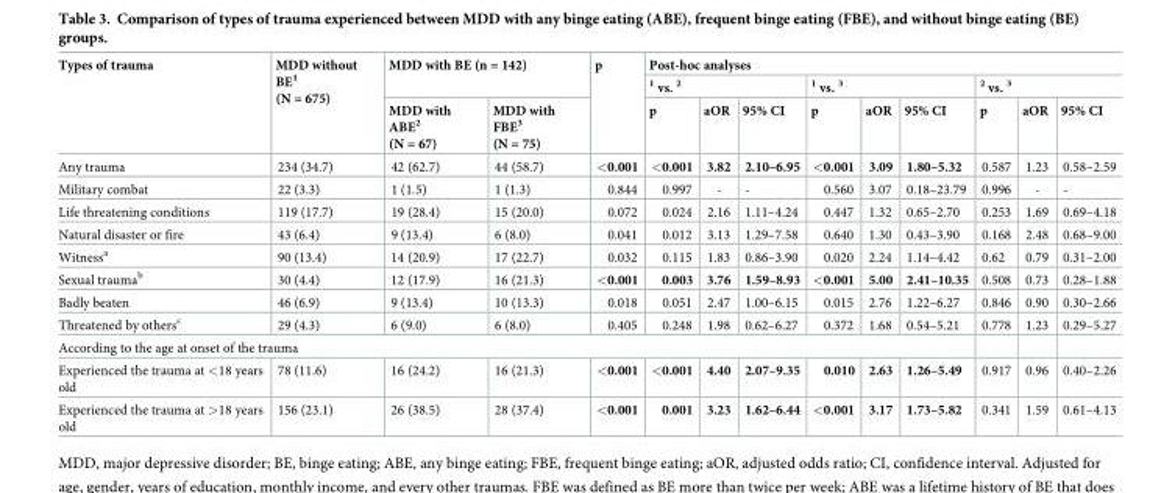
<table><thead><tr><td rowspan="3">Types of trauma</td><td rowspan="3">MDD without BE<sup>1</sup> (N = 675)</td><td rowspan="2" colspan="2">MDD with BE (n = 142)</td><td rowspan="3">p</td><td colspan="9">Post-hoc analyses</td></tr><tr><td colspan="3"><sup>1</sup> vs. <sup>2</sup></td><td colspan="3"><sup>1</sup> vs. <sup>3</sup></td><td colspan="3"><sup>2</sup> vs. <sup>3</sup></td></tr><tr><td>MDD with ABE<sup>2</sup> (N = 67)</td><td>MDD with FBE<sup>3</sup> (N = 75)</td><td>p</td><td>aOR</td><td>95% CI</td><td>p</td><td>aOR</td><td>95% CI</td><td>p</td><td>aOR</td><td>95% CI</td></tr></thead><tbody><tr><td>Any trauma</td><td>234 (34.7)</td><td>42 (62.7)</td><td>44 (58.7)</td><td>&lt;0.001</td><td>&lt;0.001</td><td>3.82</td><td>2.10–6.95</td><td>&lt;0.001</td><td>3.09</td><td>1.80–5.32</td><td>0.587</td><td>1.23</td><td>0.58–2.59</td></tr><tr><td>Military combat</td><td>22 (3.3)</td><td>1 (1.5)</td><td>1 (1.3)</td><td>0.844</td><td>0.997</td><td>-</td><td>-</td><td>0.560</td><td>3.07</td><td>0.18–23.79</td><td>0.996</td><td>-</td><td>-</td></tr><tr><td>Life threatening conditions</td><td>119 (17.7)</td><td>19 (28.4)</td><td>15 (20.0)</td><td>0.072</td><td>0.024</td><td>2.16</td><td>1.11–4.24</td><td>0.447</td><td>1.32</td><td>0.65–2.70</td><td>0.253</td><td>1.69</td><td>0.69–4.18</td></tr><tr><td>Natural disaster or fire</td><td>43 (6.4)</td><td>9 (13.4)</td><td>6 (8.0)</td><td>0.041</td><td>0.012</td><td>3.13</td><td>1.29–7.58</td><td>0.640</td><td>1.30</td><td>0.43–3.90</td><td>0.168</td><td>2.48</td><td>0.68–9.00</td></tr><tr><td>Witness<sup>a</sup></td><td>90 (13.4)</td><td>14 (20.9)</td><td>17 (22.7)</td><td>0.032</td><td>0.115</td><td>1.83</td><td>0.86–3.90</td><td>0.020</td><td>2.24</td><td>1.14–4.42</td><td>0.62</td><td>0.79</td><td>0.31–2.00</td></tr><tr><td>Sexual trauma<sup>b</sup></td><td>30 (4.4)</td><td>12 (17.9)</td><td>16 (21.3)</td><td>&lt;0.001</td><td>0.003</td><td>3.76</td><td>1.59–8.93</td><td>&lt;0.001</td><td>5.00</td><td>2.41–10.35</td><td>0.508</td><td>0.73</td><td>0.28–1.88</td></tr><tr><td>Badly beaten</td><td>46 (6.9)</td><td>9 (13.4)</td><td>10 (13.3)</td><td>0.018</td><td>0.051</td><td>2.47</td><td>1.00–6.15</td><td>0.015</td><td>2.76</td><td>1.22–6.27</td><td>0.846</td><td>0.90</td><td>0.30–2.66</td></tr><tr><td>Threatened by others<sup>c</sup></td><td>29 (4.3)</td><td>6 (9.0)</td><td>6 (8.0)</td><td>0.405</td><td>0.248</td><td>1.98</td><td>0.62–6.27</td><td>0.372</td><td>1.68</td><td>0.54–5.21</td><td>0.778</td><td>1.23</td><td>0.29–5.27</td></tr><tr><td colspan="14">According to the age at onset of the trauma</td></tr><tr><td>Experienced the trauma at &lt;18 years old</td><td>78 (11.6)</td><td>16 (24.2)</td><td>16 (21.3)</td><td>&lt;0.001</td><td>&lt;0.001</td><td>4.40</td><td>2.07–9.35</td><td>0.010</td><td>2.63</td><td>1.26–5.49</td><td>0.917</td><td>0.96</td><td>0.40–2.26</td></tr><tr><td>Experienced the trauma at &gt;18 years old</td><td>156 (23.1)</td><td>26 (38.5)</td><td>28 (37.4)</td><td>&lt;0.001</td><td>0.001</td><td>3.23</td><td>1.62–6.44</td><td>&lt;0.001</td><td>3.17</td><td>1.73–5.82</td><td>0.341</td><td>1.59</td><td>0.61–4.13</td></tr></tbody></table>